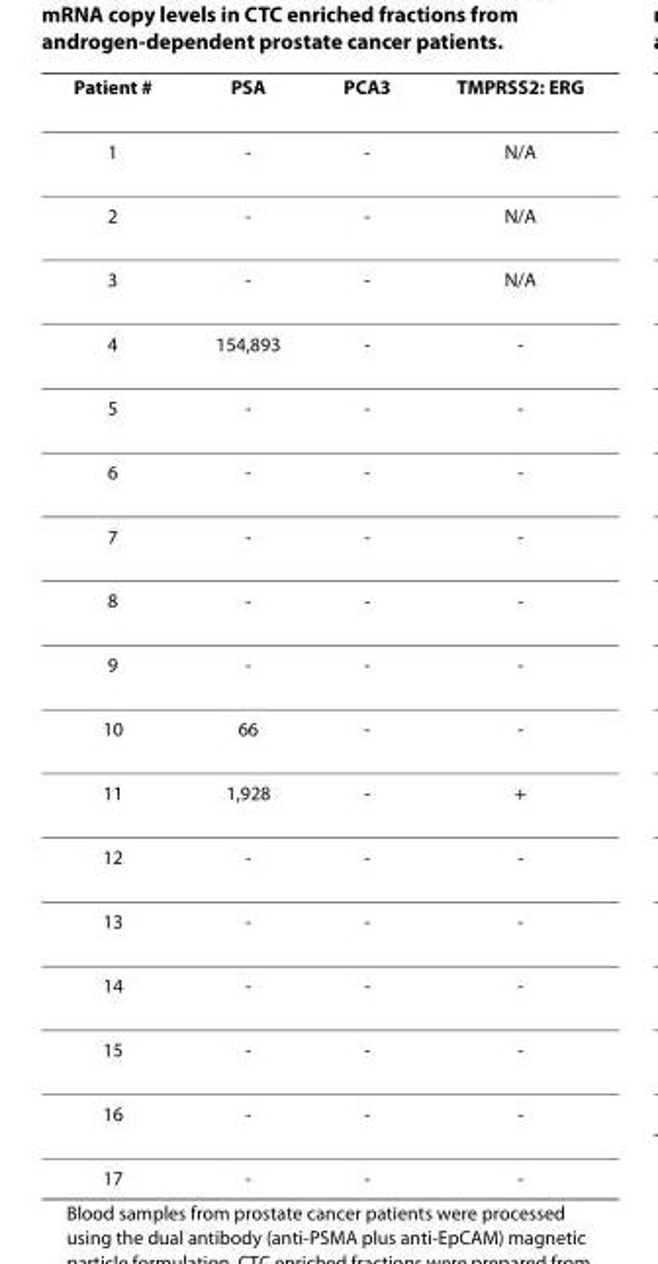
<table><thead><tr><td>Patient #</td><td>PSA</td><td>PCA3</td><td>TMPRSS2: ERG</td></tr></thead><tbody><tr><td>1</td><td>-</td><td>-</td><td>N/A</td></tr><tr><td>2</td><td>-</td><td>-</td><td>N/A</td></tr><tr><td>3</td><td>-</td><td>-</td><td>N/A</td></tr><tr><td>4</td><td>154,893</td><td>-</td><td>-</td></tr><tr><td>5</td><td>-</td><td>-</td><td>-</td></tr><tr><td>6</td><td>-</td><td>-</td><td>-</td></tr><tr><td>7</td><td>-</td><td>-</td><td>-</td></tr><tr><td>8</td><td>-</td><td>-</td><td>-</td></tr><tr><td>9</td><td>-</td><td>-</td><td>-</td></tr><tr><td>10</td><td>66</td><td>-</td><td>-</td></tr><tr><td>11</td><td>1,928</td><td>-</td><td>+</td></tr><tr><td>12</td><td>-</td><td>-</td><td>-</td></tr><tr><td>13</td><td>-</td><td>-</td><td>-</td></tr><tr><td>14</td><td>-</td><td>-</td><td>-</td></tr><tr><td>15</td><td>-</td><td>-</td><td>-</td></tr><tr><td>16</td><td>-</td><td>-</td><td>-</td></tr><tr><td>17</td><td>-</td><td>-</td><td>-</td></tr></tbody></table>